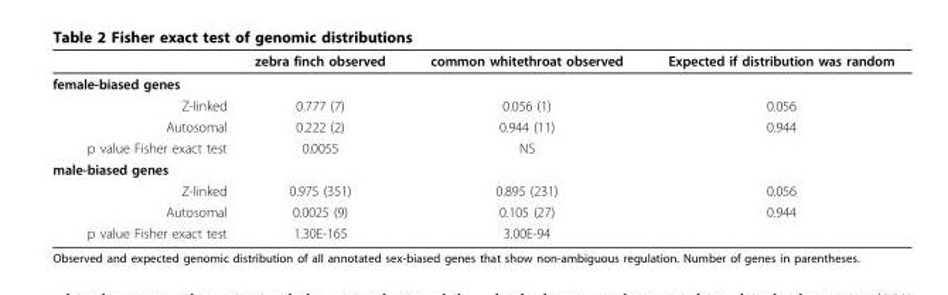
<table><thead><tr><td></td><td>zebra finch observed</td><td>common whitethroat observed</td><td>Expected if distribution was random</td></tr></thead><tbody><tr><td colspan="4">female-biased genes</td></tr><tr><td>Z-linked</td><td>0.777 (7)</td><td>0.056 (1)</td><td>0.056</td></tr><tr><td>Autosomal</td><td>0.222 (2)</td><td>0.944 (11)</td><td>0.944</td></tr><tr><td>p value Fisher exact test</td><td>0.0055</td><td>NS</td><td></td></tr><tr><td colspan="4">male-biased genes</td></tr><tr><td>Z-linked</td><td>0.975 (351)</td><td>0.895 (231)</td><td>0.056</td></tr><tr><td>Autosomal</td><td>0.0025 (9)</td><td>0.105 (27)</td><td>0.944</td></tr><tr><td>p value Fisher exact test</td><td>1.30E-165</td><td>3.00E-94</td><td></td></tr></tbody></table>